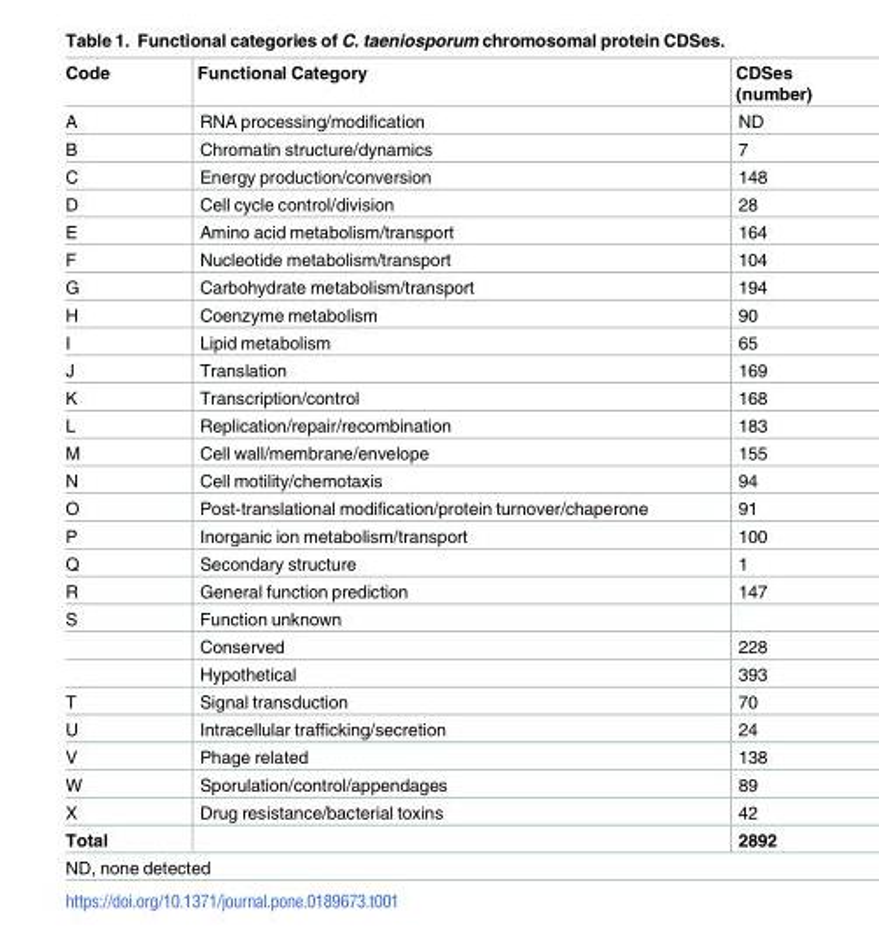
<table><thead><tr><td>Code</td><td>Functional Category</td><td>CDSes (number)</td></tr></thead><tbody><tr><td>A</td><td>RNA processing/modification</td><td>ND</td></tr><tr><td>B</td><td>Chromatin structure/dynamics</td><td>7</td></tr><tr><td>C</td><td>Energy production/conversion</td><td>148</td></tr><tr><td>D</td><td>Cell cycle control/division</td><td>28</td></tr><tr><td>E</td><td>Amino acid metabolism/transport</td><td>164</td></tr><tr><td>F</td><td>Nucleotide metabolism/transport</td><td>104</td></tr><tr><td>G</td><td>Carbohydrate metabolism/transport</td><td>194</td></tr><tr><td>H</td><td>Coenzyme metabolism</td><td>90</td></tr><tr><td>I</td><td>Lipid metabolism</td><td>65</td></tr><tr><td>J</td><td>Translation</td><td>169</td></tr><tr><td>K</td><td>Transcription/control</td><td>168</td></tr><tr><td>L</td><td>Replication/repair/recombination</td><td>183</td></tr><tr><td>M</td><td>Cell wall/membrane/envelope</td><td>155</td></tr><tr><td>N</td><td>Cell motility/chemotaxis</td><td>94</td></tr><tr><td>O</td><td>Post-translational modification/protein turnover/chaperone</td><td>91</td></tr><tr><td>P</td><td>Inorganic ion metabolism/transport</td><td>100</td></tr><tr><td>Q</td><td>Secondary structure</td><td>1</td></tr><tr><td>R</td><td>General function prediction</td><td>147</td></tr><tr><td rowspan="3">S</td><td>Function unknown</td><td></td></tr><tr><td>Conserved</td><td>228</td></tr><tr><td>Hypothetical</td><td>393</td></tr><tr><td>T</td><td>Signal transduction</td><td>70</td></tr><tr><td>U</td><td>Intracellular trafficking/secretion</td><td>24</td></tr><tr><td>V</td><td>Phage related</td><td>138</td></tr><tr><td>W</td><td>Sporulation/control/appendages</td><td>89</td></tr><tr><td>X</td><td>Drug resistance/bacterial toxins</td><td>42</td></tr><tr><td>Total</td><td></td><td>2892</td></tr><tr><td colspan="3">ND, none detected</td></tr></tbody></table>